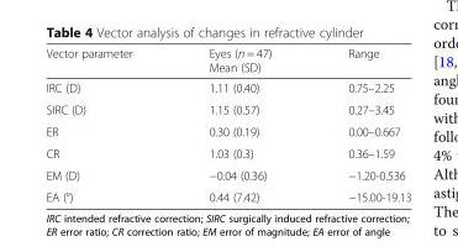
<table><thead><tr><td>Vector parameter</td><td>Eyes (n = 47) Mean (SD)</td><td>Range</td></tr></thead><tbody><tr><td>IRC (D)</td><td>1.11 (0.40)</td><td>0.75–2.25</td></tr><tr><td>SIRC (D)</td><td>1.15 (0.57)</td><td>0.27–3.45</td></tr><tr><td>ER</td><td>0.30 (0.19)</td><td>0.00–0.667</td></tr><tr><td>CR</td><td>1.03 (0.3)</td><td>0.36–1.59</td></tr><tr><td>EM (D)</td><td>−0.04 (0.36)</td><td>−1.20-0.536</td></tr><tr><td>EA (°)</td><td>0.44 (7.42)</td><td>−15.00-19.13</td></tr></tbody></table>